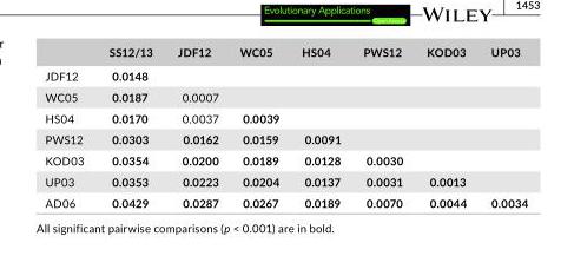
<table><thead><tr><td></td><td>SS12/13</td><td>JDF12</td><td>WC05</td><td>HS04</td><td>PWS12</td><td>KOD03</td><td>UP03</td></tr></thead><tbody><tr><td>JDF12</td><td>0.0148</td><td></td><td></td><td></td><td></td><td></td><td></td></tr><tr><td>WC05</td><td>0.0187</td><td>0.0007</td><td></td><td></td><td></td><td></td><td></td></tr><tr><td>HS04</td><td>0.0170</td><td>0.0037</td><td>0.0039</td><td></td><td></td><td></td><td></td></tr><tr><td>PWS12</td><td>0.0303</td><td>0.0162</td><td>0.0159</td><td>0.0091</td><td></td><td></td><td></td></tr><tr><td>KOD03</td><td>0.0354</td><td>0.0200</td><td>0.0189</td><td>0.0128</td><td>0.0030</td><td></td><td></td></tr><tr><td>UP03</td><td>0.0353</td><td>0.0223</td><td>0.0204</td><td>0.0137</td><td>0.0031</td><td>0.0013</td><td></td></tr><tr><td>AD06</td><td>0.0429</td><td>0.0287</td><td>0.0267</td><td>0.0189</td><td>0.0070</td><td>0.0044</td><td>0.0034</td></tr></tbody></table>